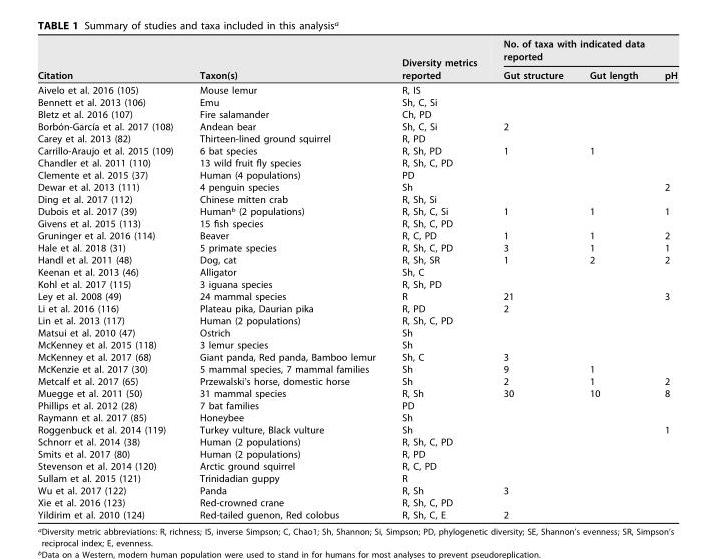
<table><thead><tr><td rowspan="2">Citation</td><td rowspan="2">Taxon(s)</td><td rowspan="2">Diversity metrics reported</td><td colspan="3">No. of taxa with indicated data reported</td></tr><tr><td>Gut structure</td><td>Gut length</td><td>pH</td></tr></thead><tbody><tr><td>Aivelo et al. 2016 (105)</td><td>Mouse lemur</td><td>R, IS</td><td></td><td></td><td></td></tr><tr><td>Bennett et al. 2013 (106)</td><td>Emu</td><td>Sh, C, Si</td><td></td><td></td><td></td></tr><tr><td>Bletz et al. 2016 (107)</td><td>Fire salamander</td><td>Ch, PD</td><td></td><td></td><td></td></tr><tr><td>Borbón-García et al. 2017 (108)</td><td>Andean bear</td><td>Sh, C, Si</td><td>2</td><td></td><td></td></tr><tr><td>Carey et al. 2013 (82)</td><td>Thirteen-lined ground squirrel</td><td>R, PD</td><td></td><td></td><td></td></tr><tr><td>Carrillo-Araujo et al. 2015 (109)</td><td>6 bat species</td><td>R, Sh, PD</td><td>1</td><td>1</td><td></td></tr><tr><td>Chandler et al. 2011 (110)</td><td>13 wild fruit fly species</td><td>R, Sh, C, PD</td><td></td><td></td><td></td></tr><tr><td>Clemente et al. 2015 (37)</td><td>Human (4 populations)</td><td>PD</td><td></td><td></td><td></td></tr><tr><td>Dewar et al. 2013 (111)</td><td>4 penguin species</td><td>Sh</td><td></td><td></td><td>2</td></tr><tr><td>Ding et al. 2017 (112)</td><td>Chinese mitten crab</td><td>R, Sh, Si</td><td></td><td></td><td></td></tr><tr><td>Dubois et al. 2017 (39)</td><td>Human<sup>b</sup> (2 populations)</td><td>R, Sh, C, Si</td><td>1</td><td>1</td><td>1</td></tr><tr><td>Givens et al. 2015 (113)</td><td>15 fish species</td><td>R, Sh, C, PD</td><td></td><td></td><td></td></tr><tr><td>Gruninger et al. 2016 (114)</td><td>Beaver</td><td>R, C, PD</td><td>1</td><td>1</td><td>2</td></tr><tr><td>Hale et al. 2018 (31)</td><td>5 primate species</td><td>R, Sh, C, PD</td><td>3</td><td>1</td><td>1</td></tr><tr><td>Handl et al. 2011 (48)</td><td>Dog, cat</td><td>R, Sh, SR</td><td>1</td><td>2</td><td>2</td></tr><tr><td>Keenan et al. 2013 (46)</td><td>Alligator</td><td>Sh, C</td><td></td><td></td><td></td></tr><tr><td>Kohl et al. 2017 (115)</td><td>3 iguana species</td><td>R, Sh, PD</td><td></td><td></td><td></td></tr><tr><td>Ley et al. 2008 (49)</td><td>24 mammal species</td><td>R</td><td>21</td><td></td><td>3</td></tr><tr><td>Li et al. 2016 (116)</td><td>Plateau pika, Daurian pika</td><td>R, PD</td><td>2</td><td></td><td></td></tr><tr><td>Lin et al. 2013 (117)</td><td>Human (2 populations)</td><td>R, Sh, C, PD</td><td></td><td></td><td></td></tr><tr><td>Matsui et al. 2010 (47)</td><td>Ostrich</td><td>Sh</td><td></td><td></td><td></td></tr><tr><td>McKenney et al. 2015 (118)</td><td>3 lemur species</td><td>Sh</td><td></td><td></td><td></td></tr><tr><td>McKenney et al. 2017 (68)</td><td>Giant panda, Red panda, Bamboo lemur</td><td>Sh, C</td><td>3</td><td></td><td></td></tr><tr><td>McKenzie et al. 2017 (30)</td><td>5 mammal species, 7 mammal families</td><td>Sh</td><td>9</td><td>1</td><td></td></tr><tr><td>Metcalf et al. 2017 (65)</td><td>Przewalski’s horse, domestic horse</td><td>Sh</td><td>2</td><td>1</td><td>2</td></tr><tr><td>Muegge et al. 2011 (50)</td><td>31 mammal species</td><td>R, Sh</td><td>30</td><td>10</td><td>8</td></tr><tr><td>Phillips et al. 2012 (28)</td><td>7 bat families</td><td>PD</td><td></td><td></td><td></td></tr><tr><td>Raymann et al. 2017 (85)</td><td>Honeybee</td><td>Sh</td><td></td><td></td><td></td></tr><tr><td>Roggenbuck et al. 2014 (119)</td><td>Turkey vulture, Black vulture</td><td>Sh</td><td></td><td></td><td>1</td></tr><tr><td>Schnorr et al. 2014 (38)</td><td>Human (2 populations)</td><td>R, Sh, C, PD</td><td></td><td></td><td></td></tr><tr><td>Smits et al. 2017 (80)</td><td>Human (2 populations)</td><td>R, PD</td><td></td><td></td><td></td></tr><tr><td>Stevenson et al. 2014 (120)</td><td>Arctic ground squirrel</td><td>R, C, PD</td><td></td><td></td><td></td></tr><tr><td>Sullam et al. 2015 (121)</td><td>Trinidadian guppy</td><td>R</td><td></td><td></td><td></td></tr><tr><td>Wu et al. 2017 (122)</td><td>Panda</td><td>R, Sh</td><td>3</td><td></td><td></td></tr><tr><td>Xie et al. 2016 (123)</td><td>Red-crowned crane</td><td>R, Sh, C, PD</td><td></td><td></td><td></td></tr><tr><td>Yildirim et al. 2010 (124)</td><td>Red-tailed guenon, Red colobus</td><td>R, Sh, C, E</td><td>2</td><td></td><td></td></tr></tbody></table>